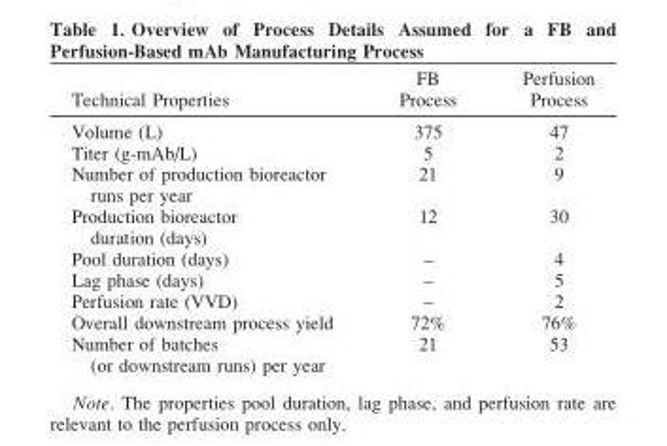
<table><thead><tr><td>Technical Properties</td><td>FB Process</td><td>Perfusion Process</td></tr></thead><tbody><tr><td>Volume (L)</td><td>375</td><td>47</td></tr><tr><td>Titer (g-mAb/L)</td><td>5</td><td>2</td></tr><tr><td>Number of production bioreactor runs per year</td><td>21</td><td>9</td></tr><tr><td>Production bioreactor duration (days)</td><td>12</td><td>30</td></tr><tr><td>Pool duration (days)</td><td>–</td><td>4</td></tr><tr><td>Lag phase (days)</td><td>–</td><td>5</td></tr><tr><td>Perfusion rate (VVD)</td><td>–</td><td>2</td></tr><tr><td>Overall downstream process yield</td><td>72%</td><td>76%</td></tr><tr><td>Number of batches (or downstream runs) per year</td><td>21</td><td>53</td></tr></tbody></table>